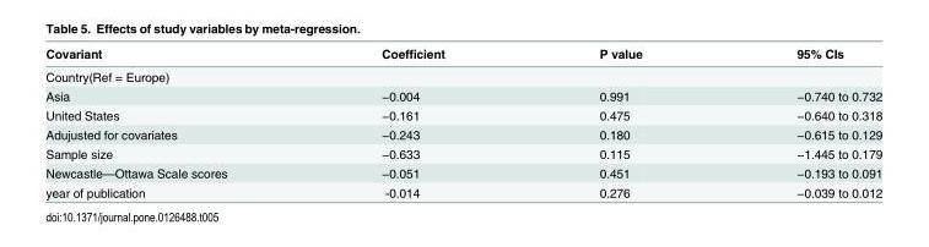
<table><thead><tr><td>Covariant</td><td>Coefficient</td><td>P value</td><td>95% CIs</td></tr></thead><tbody><tr><td colspan="4">Country(Ref = Europe)</td></tr><tr><td>Asia</td><td>−0.004</td><td>0.991</td><td>−0.740 to 0.732</td></tr><tr><td>United States</td><td>−0.161</td><td>0.475</td><td>−0.640 to 0.318</td></tr><tr><td>Adujusted for covariates</td><td>−0.243</td><td>0.180</td><td>−0.615 to 0.129</td></tr><tr><td>Sample size</td><td>−0.633</td><td>0.115</td><td>−1.445 to 0.179</td></tr><tr><td>Newcastle—Ottawa Scale scores</td><td>−0.051</td><td>0.451</td><td>−0.193 to 0.091</td></tr><tr><td>year of publication</td><td>-0.014</td><td>0.276</td><td>−0.039 to 0.012</td></tr></tbody></table>